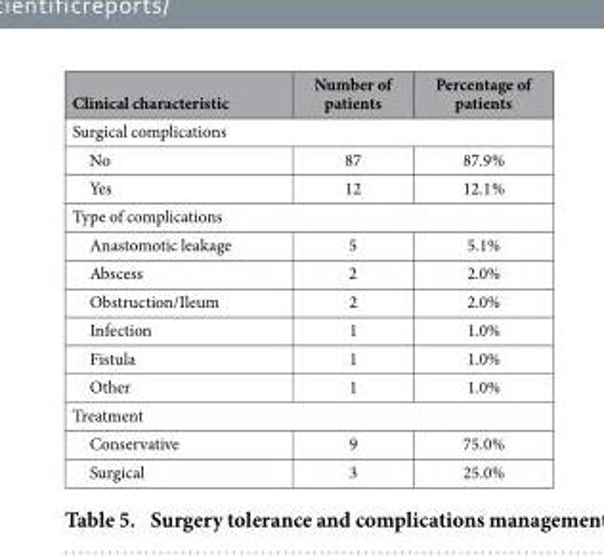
<table><thead><tr><td>Clinical characteristic</td><td>Number of patients</td><td>Percentage of patients</td></tr></thead><tbody><tr><td colspan="3">Surgical complications</td></tr><tr><td>No</td><td>87</td><td>87.9%</td></tr><tr><td>Yes</td><td>12</td><td>12.1%</td></tr><tr><td colspan="3">Type of complications</td></tr><tr><td>Anastomotic leakage</td><td>5</td><td>5.1%</td></tr><tr><td>Abscess</td><td>2</td><td>2.0%</td></tr><tr><td>Obstruction/Ileum</td><td>2</td><td>2.0%</td></tr><tr><td>Infection</td><td>1</td><td>1.0%</td></tr><tr><td>Fistula</td><td>1</td><td>1.0%</td></tr><tr><td>Other</td><td>1</td><td>1.0%</td></tr><tr><td colspan="3">Treatment</td></tr><tr><td>Conservative</td><td>9</td><td>75.0%</td></tr><tr><td>Surgical</td><td>3</td><td>25.0%</td></tr></tbody></table>